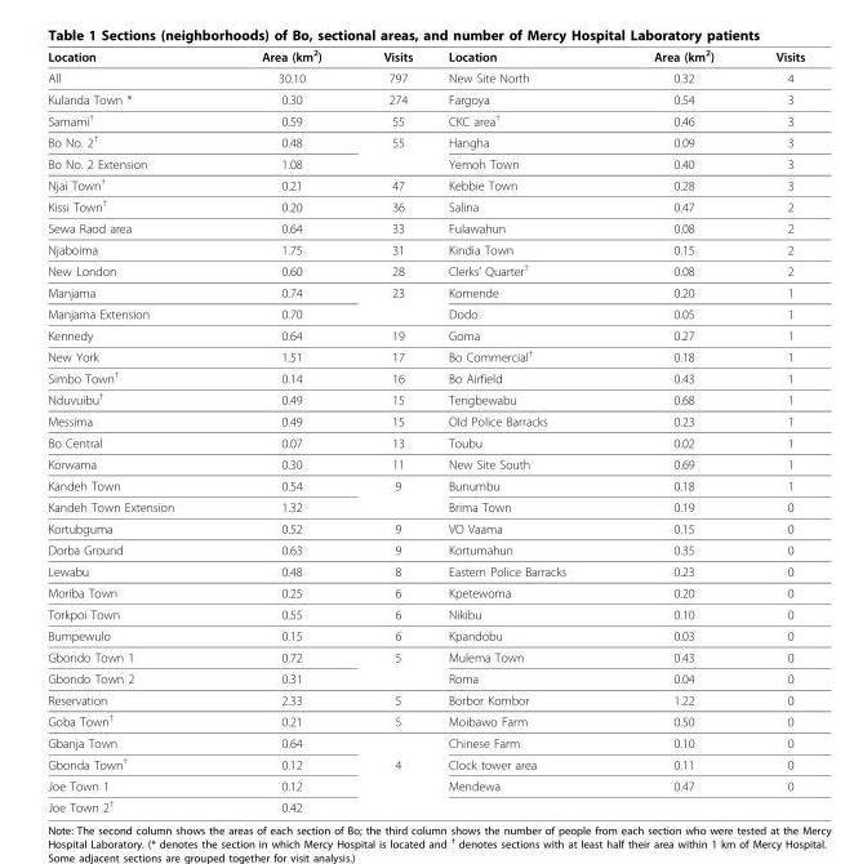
<table><thead><tr><td>Location</td><td>Area (km<sup>2</sup>)</td><td>Visits</td><td>Location</td><td>Area (km<sup>2</sup>)</td><td>Visits</td></tr></thead><tbody><tr><td>All</td><td>30.10</td><td>797</td><td>New Site North</td><td>0.32</td><td>4</td></tr><tr><td>Kulanda Town *</td><td>0.30</td><td>274</td><td>Fargoya</td><td>0.54</td><td>3</td></tr><tr><td>Samami<sup>†</sup></td><td>0.59</td><td>55</td><td>CKC area<sup>†</sup></td><td>0.46</td><td>3</td></tr><tr><td>Bo No. 2<sup>†</sup></td><td>0.48</td><td>55</td><td>Hangha</td><td>0.09</td><td>3</td></tr><tr><td>Bo No. 2 Extension</td><td>1.08</td><td></td><td>Yemoh Town</td><td>0.40</td><td>3</td></tr><tr><td>Njai Town<sup>†</sup></td><td>0.21</td><td>47</td><td>Kebbie Town</td><td>0.28</td><td>3</td></tr><tr><td>Kissi Town<sup>†</sup></td><td>0.20</td><td>36</td><td>Salina</td><td>0.47</td><td>2</td></tr><tr><td>Sewa Raod area</td><td>0.64</td><td>33</td><td>Fulawahun</td><td>0.08</td><td>2</td></tr><tr><td>Njaboima</td><td>1.75</td><td>31</td><td>Kindia Town</td><td>0.15</td><td>2</td></tr><tr><td>New London</td><td>0.60</td><td>28</td><td>Clerks’ Quarter<sup>†</sup></td><td>0.08</td><td>2</td></tr><tr><td>Manjama</td><td>0.74</td><td>23</td><td>Komende</td><td>0.20</td><td>1</td></tr><tr><td>Manjama Extension</td><td>0.70</td><td></td><td>Dodo</td><td>0.05</td><td>1</td></tr><tr><td>Kennedy</td><td>0.64</td><td>19</td><td>Goma</td><td>0.27</td><td>1</td></tr><tr><td>New York</td><td>1.51</td><td>17</td><td>Bo Commercial<sup>†</sup></td><td>0.18</td><td>1</td></tr><tr><td>Simbo Town<sup>†</sup></td><td>0.14</td><td>16</td><td>Bo Airfield</td><td>0.43</td><td>1</td></tr><tr><td>Nduvuibu<sup>†</sup></td><td>0.49</td><td>15</td><td>Tengbewabu</td><td>0.68</td><td>1</td></tr><tr><td>Messima</td><td>0.49</td><td>15</td><td>Old Police Barracks</td><td>0.23</td><td>1</td></tr><tr><td>Bo Central</td><td>0.07</td><td>13</td><td>Toubu</td><td>0.02</td><td>1</td></tr><tr><td>Korwama</td><td>0.30</td><td>11</td><td>New Site South</td><td>0.69</td><td>1</td></tr><tr><td>Kandeh Town</td><td>0.54</td><td>9</td><td>Bunumbu</td><td>0.18</td><td>1</td></tr><tr><td>Kandeh Town Extension</td><td>1.32</td><td></td><td>Brima Town</td><td>0.19</td><td>0</td></tr><tr><td>Kortubguma</td><td>0.52</td><td>9</td><td>VO Vaama</td><td>0.15</td><td>0</td></tr><tr><td>Dorba Ground</td><td>0.63</td><td>9</td><td>Kortumahun</td><td>0.35</td><td>0</td></tr><tr><td>Lewabu</td><td>0.48</td><td>8</td><td>Eastern Police Barracks</td><td>0.23</td><td>0</td></tr><tr><td>Moriba Town</td><td>0.25</td><td>6</td><td>Kpetewoma</td><td>0.20</td><td>0</td></tr><tr><td>Torkpoi Town</td><td>0.55</td><td>6</td><td>Nikibu</td><td>0.10</td><td>0</td></tr><tr><td>Bumpewulo</td><td>0.15</td><td>6</td><td>Kpandobu</td><td>0.03</td><td>0</td></tr><tr><td>Gbondo Town 1</td><td>0.72</td><td>5</td><td>Mulema Town</td><td>0.43</td><td>0</td></tr><tr><td>Gbondo Town 2</td><td>0.31</td><td></td><td>Roma</td><td>0.04</td><td>0</td></tr><tr><td>Reservation</td><td>2.33</td><td>5</td><td>Borbor Kombor</td><td>1.22</td><td>0</td></tr><tr><td>Goba Town<sup>†</sup></td><td>0.21</td><td>5</td><td>Moibawo Farm</td><td>0.50</td><td>0</td></tr><tr><td>Gbanja Town</td><td>0.64</td><td></td><td>Chinese Farm</td><td>0.10</td><td>0</td></tr><tr><td>Gbonda Town<sup>†</sup></td><td>0.12</td><td>4</td><td>Clock tower area</td><td>0.11</td><td>0</td></tr><tr><td>Joe Town 1</td><td>0.12</td><td></td><td>Mendewa</td><td>0.47</td><td>0</td></tr><tr><td>Joe Town 2<sup>†</sup></td><td>0.42</td><td></td><td></td><td></td><td></td></tr></tbody></table>